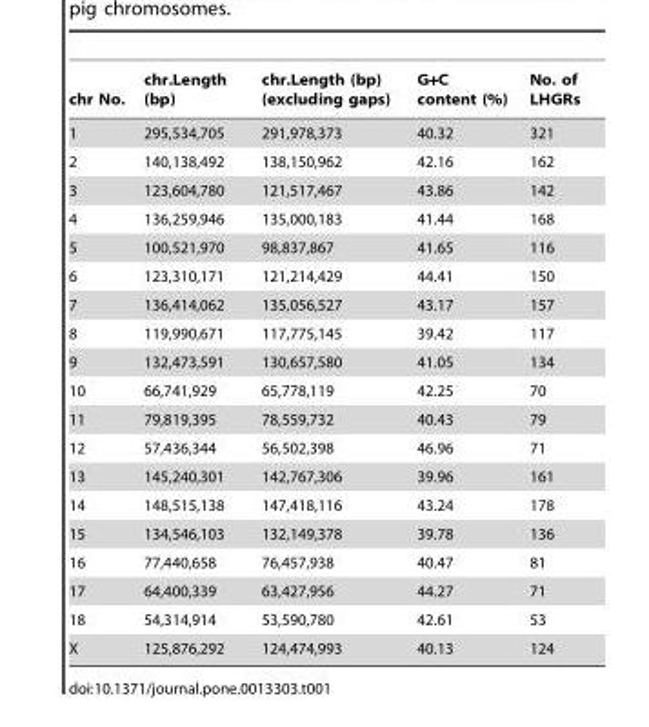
<table><thead><tr><td>chr No.</td><td>chr.Length (bp)</td><td>chr.Length (bp) (excluding gaps)</td><td>G+C content (%)</td><td>No. of LHGRs</td></tr></thead><tbody><tr><td>1</td><td>295,534,705</td><td>291,978,373</td><td>40.32</td><td>321</td></tr><tr><td>2</td><td>140,138,492</td><td>138,150,962</td><td>42.16</td><td>162</td></tr><tr><td>3</td><td>123,604,780</td><td>121,517,467</td><td>43.86</td><td>142</td></tr><tr><td>4</td><td>136,259,946</td><td>135,000,183</td><td>41.44</td><td>168</td></tr><tr><td>5</td><td>100,521,970</td><td>98,837,867</td><td>41.65</td><td>116</td></tr><tr><td>6</td><td>123,310,171</td><td>121,214,429</td><td>44.41</td><td>150</td></tr><tr><td>7</td><td>136,414,062</td><td>135,056,527</td><td>43.17</td><td>157</td></tr><tr><td>8</td><td>119,990,671</td><td>117,775,145</td><td>39.42</td><td>117</td></tr><tr><td>9</td><td>132,473,591</td><td>130,657,580</td><td>41.05</td><td>134</td></tr><tr><td>10</td><td>66,741,929</td><td>65,778,119</td><td>42.25</td><td>70</td></tr><tr><td>11</td><td>79,819,395</td><td>78,559,732</td><td>40.43</td><td>79</td></tr><tr><td>12</td><td>57,436,344</td><td>56,502,398</td><td>46.96</td><td>71</td></tr><tr><td>13</td><td>145,240,301</td><td>142,767,306</td><td>39.96</td><td>161</td></tr><tr><td>14</td><td>148,515,138</td><td>147,418,116</td><td>43.24</td><td>178</td></tr><tr><td>15</td><td>134,546,103</td><td>132,149,378</td><td>39.78</td><td>136</td></tr><tr><td>16</td><td>77,440,658</td><td>76,457,938</td><td>40.47</td><td>81</td></tr><tr><td>17</td><td>64,400,339</td><td>63,427,956</td><td>44.27</td><td>71</td></tr><tr><td>18</td><td>54,314,914</td><td>53,590,780</td><td>42.61</td><td>53</td></tr><tr><td>X</td><td>125,876,292</td><td>124,474,993</td><td>40.13</td><td>124</td></tr></tbody></table>